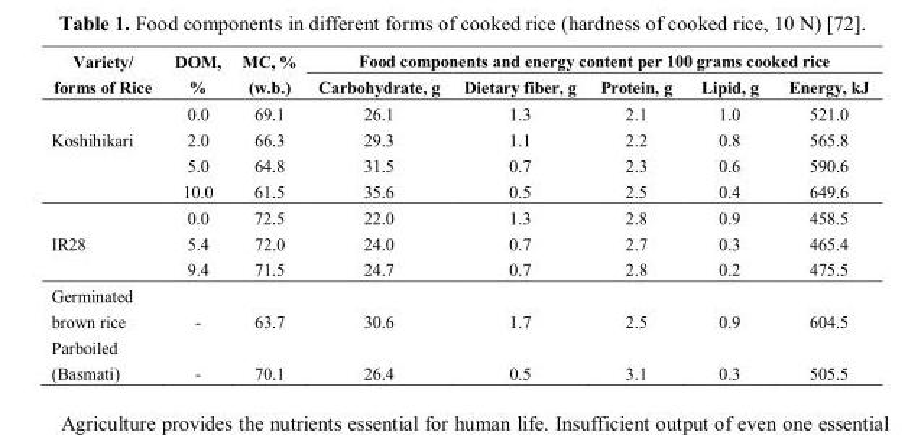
<table><thead><tr><td rowspan="2">Variety/ forms of Rice</td><td rowspan="2">DOM, %</td><td rowspan="2">MC, % (w.b.)</td><td colspan="5">Food components and energy content per 100 grams cooked rice</td></tr><tr><td>Carbohydrate, g</td><td>Dietary fiber, g</td><td>Protein, g</td><td>Lipid, g</td><td>Energy, kJ</td></tr></thead><tbody><tr><td rowspan="4">Koshihikari</td><td>0.0</td><td>69.1</td><td>26.1</td><td>1.3</td><td>2.1</td><td>1.0</td><td>521.0</td></tr><tr><td>2.0</td><td>66.3</td><td>29.3</td><td>1.1</td><td>2.2</td><td>0.8</td><td>565.8</td></tr><tr><td>5.0</td><td>64.8</td><td>31.5</td><td>0.7</td><td>2.3</td><td>0.6</td><td>590.6</td></tr><tr><td>10.0</td><td>61.5</td><td>35.6</td><td>0.5</td><td>2.5</td><td>0.4</td><td>649.6</td></tr><tr><td rowspan="3">IR28</td><td>0.0</td><td>72.5</td><td>22.0</td><td>1.3</td><td>2.8</td><td>0.9</td><td>458.5</td></tr><tr><td>5.4</td><td>72.0</td><td>24.0</td><td>0.7</td><td>2.7</td><td>0.3</td><td>465.4</td></tr><tr><td>9.4</td><td>71.5</td><td>24.7</td><td>0.7</td><td>2.8</td><td>0.2</td><td>475.5</td></tr><tr><td>Germinated brown rice</td><td>-</td><td>63.7</td><td>30.6</td><td>1.7</td><td>2.5</td><td>0.9</td><td>604.5</td></tr><tr><td>Parboiled (Basmati)</td><td>-</td><td>70.1</td><td>26.4</td><td>0.5</td><td>3.1</td><td>0.3</td><td>505.5</td></tr></tbody></table>